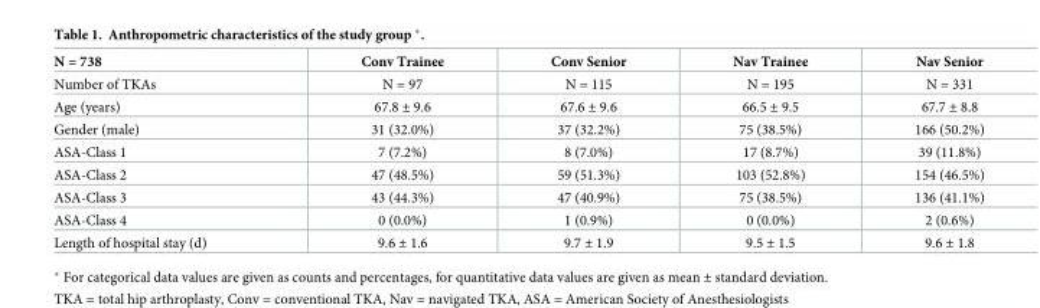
<table><thead><tr><td>N = 738</td><td>Conv Trainee</td><td>Conv Senior</td><td>Nav Trainee</td><td>Nav Senior</td></tr></thead><tbody><tr><td>Number of TKAs</td><td>N = 97</td><td>N = 115</td><td>N = 195</td><td>N = 331</td></tr><tr><td>Age (years)</td><td>67.8 ± 9.6</td><td>67.6 ± 9.6</td><td>66.5 ± 9.5</td><td>67.7 ± 8.8</td></tr><tr><td>Gender (male)</td><td>31 (32.0%)</td><td>37 (32.2%)</td><td>75 (38.5%)</td><td>166 (50.2%)</td></tr><tr><td>ASA-Class 1</td><td>7 (7.2%)</td><td>8 (7.0%)</td><td>17 (8.7%)</td><td>39 (11.8%)</td></tr><tr><td>ASA-Class 2</td><td>47 (48.5%)</td><td>59 (51.3%)</td><td>103 (52.8%)</td><td>154 (46.5%)</td></tr><tr><td>ASA-Class 3</td><td>43 (44.3%)</td><td>47 (40.9%)</td><td>75 (38.5%)</td><td>136 (41.1%)</td></tr><tr><td>ASA-Class 4</td><td>0 (0.0%)</td><td>1 (0.9%)</td><td>0 (0.0%)</td><td>2 (0.6%)</td></tr><tr><td>Length of hospital stay (d)</td><td>9.6 ± 1.6</td><td>9.7 ± 1.9</td><td>9.5 ± 1.5</td><td>9.6 ± 1.8</td></tr></tbody></table>